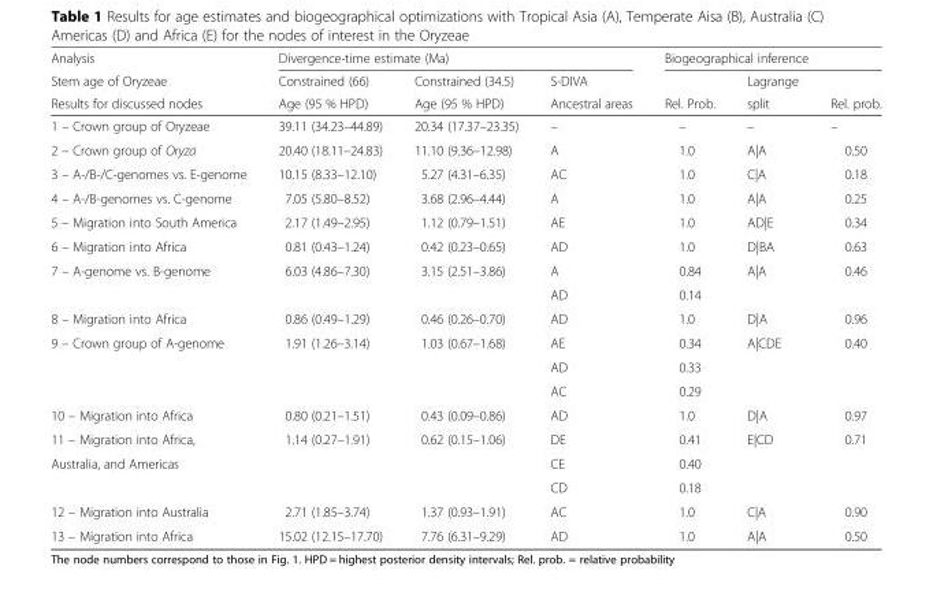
<table><thead><tr><td rowspan="3">Analysis Stem age of Oryzeae Results for discussed nodes</td><td colspan="3">Divergence-time estimate (Ma)</td><td colspan="3">Biogeographical inference</td></tr><tr><td rowspan="2">Constrained (66) Age (95 % HPD)</td><td rowspan="2">Constrained (34.5) Age (95 % HPD)</td><td rowspan="2">S-DIVA Ancestral areas</td><td rowspan="2">Rel. Prob.</td><td rowspan="2">Lagrange split</td><td rowspan="2">Rel. prob.</td></tr><tr></tr></thead><tbody><tr><td>1 – Crown group of Oryzeae</td><td>39.11 (34.23–44.89)</td><td>20.34 (17.37–23.35)</td><td>–</td><td>–</td><td>–</td><td>–</td></tr><tr><td>2 – Crown group of Oryza</td><td>20.40 (18.11–24.83)</td><td>11.10 (9.36–12.98)</td><td>A</td><td>1.0</td><td>A|A</td><td>0.50</td></tr><tr><td>3 – A-/B-/C-genomes vs. E-genome</td><td>10.15 (8.33–12.10)</td><td>5.27 (4.31–6.35)</td><td>AC</td><td>1.0</td><td>C|A</td><td>0.18</td></tr><tr><td>4 – A-/B-genomes vs. C-genome</td><td>7.05 (5.80–8.52)</td><td>3.68 (2.96–4.44)</td><td>A</td><td>1.0</td><td>A|A</td><td>0.25</td></tr><tr><td>5 – Migration into South America</td><td>2.17 (1.49–2.95)</td><td>1.12 (0.79–1.51)</td><td>AE</td><td>1.0</td><td>AD|E</td><td>0.34</td></tr><tr><td>6 – Migration into Africa</td><td>0.81 (0.43–1.24)</td><td>0.42 (0.23–0.65)</td><td>AD</td><td>1.0</td><td>D|BA</td><td>0.63</td></tr><tr><td rowspan="2">7 – A-genome vs. B-genome</td><td>6.03 (4.86–7.30)</td><td>3.15 (2.51–3.86)</td><td>A</td><td>0.84</td><td>A|A</td><td>0.46</td></tr><tr><td></td><td></td><td>AD</td><td>0.14</td><td></td><td></td></tr><tr><td>8 – Migration into Africa</td><td>0.86 (0.49–1.29)</td><td>0.46 (0.26–0.70)</td><td>AD</td><td>1.0</td><td>D|A</td><td>0.96</td></tr><tr><td rowspan="3">9 – Crown group of A-genome</td><td>1.91 (1.26–3.14)</td><td>1.03 (0.67–1.68)</td><td>AE</td><td>0.34</td><td>A|CDE</td><td>0.40</td></tr><tr><td></td><td></td><td>AD</td><td>0.33</td><td></td><td></td></tr><tr><td></td><td></td><td>AC</td><td>0.29</td><td></td><td></td></tr><tr><td>10 – Migration into Africa</td><td>0.80 (0.21–1.51)</td><td>0.43 (0.09–0.86)</td><td>AD</td><td>1.0</td><td>D|A</td><td>0.97</td></tr><tr><td>11 – Migration into Africa,</td><td>1.14 (0.27–1.91)</td><td>0.62 (0.15–1.06)</td><td>DE</td><td>0.41</td><td>E|CD</td><td>0.71</td></tr><tr><td rowspan="2">Australia, and Americas</td><td></td><td></td><td>CE</td><td>0.40</td><td></td><td></td></tr><tr><td></td><td></td><td>CD</td><td>0.18</td><td></td><td></td></tr><tr><td>12 – Migration into Australia</td><td>2.71 (1.85–3.74)</td><td>1.37 (0.93–1.91)</td><td>AC</td><td>1.0</td><td>C|A</td><td>0.90</td></tr><tr><td>13 – Migration into Africa</td><td>15.02 (12.15–17.70)</td><td>7.76 (6.31–9.29)</td><td>AD</td><td>1.0</td><td>A|A</td><td>0.50</td></tr></tbody></table>